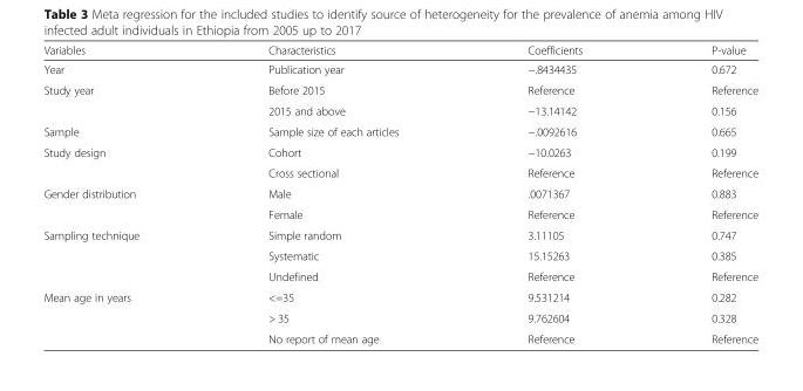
<table><thead><tr><td>Variables</td><td>Characteristics</td><td>Coefficients</td><td>P-value</td></tr></thead><tbody><tr><td>Year</td><td>Publication year</td><td>−.8434435</td><td>0.672</td></tr><tr><td rowspan="2">Study year</td><td>Before 2015</td><td>Reference</td><td>Reference</td></tr><tr><td>2015 and above</td><td>−13.14142</td><td>0.156</td></tr><tr><td>Sample</td><td>Sample size of each articles</td><td>−.0092616</td><td>0.665</td></tr><tr><td rowspan="2">Study design</td><td>Cohort</td><td>−10.0263</td><td>0.199</td></tr><tr><td>Cross sectional</td><td>Reference</td><td>Reference</td></tr><tr><td rowspan="2">Gender distribution</td><td>Male</td><td>.0071367</td><td>0.883</td></tr><tr><td>Female</td><td>Reference</td><td>Reference</td></tr><tr><td rowspan="3">Sampling technique</td><td>Simple random</td><td>3.11105</td><td>0.747</td></tr><tr><td>Systematic</td><td>15.15263</td><td>0.385</td></tr><tr><td>Undefined</td><td>Reference</td><td>Reference</td></tr><tr><td rowspan="3">Mean age in years</td><td>&lt;=35</td><td>9.531214</td><td>0.282</td></tr><tr><td>&gt; 35</td><td>9.762604</td><td>0.328</td></tr><tr><td>No report of mean age</td><td>Reference</td><td>Reference</td></tr></tbody></table>